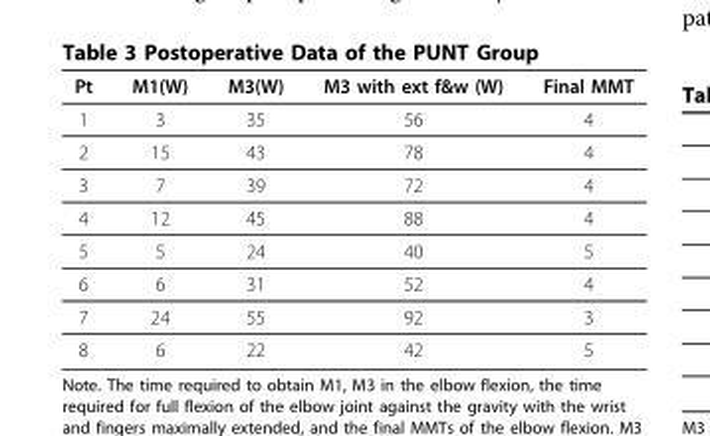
<table><thead><tr><td>Pt</td><td>M1(W)</td><td>M3(W)</td><td>M3 with ext f&amp;w (W)</td><td>Final MMT</td></tr></thead><tbody><tr><td>1</td><td>3</td><td>35</td><td>56</td><td>4</td></tr><tr><td>2</td><td>15</td><td>43</td><td>78</td><td>4</td></tr><tr><td>3</td><td>7</td><td>39</td><td>72</td><td>4</td></tr><tr><td>4</td><td>12</td><td>45</td><td>88</td><td>4</td></tr><tr><td>5</td><td>5</td><td>24</td><td>40</td><td>5</td></tr><tr><td>6</td><td>6</td><td>31</td><td>52</td><td>4</td></tr><tr><td>7</td><td>24</td><td>55</td><td>92</td><td>3</td></tr><tr><td>8</td><td>6</td><td>22</td><td>42</td><td>5</td></tr></tbody></table>